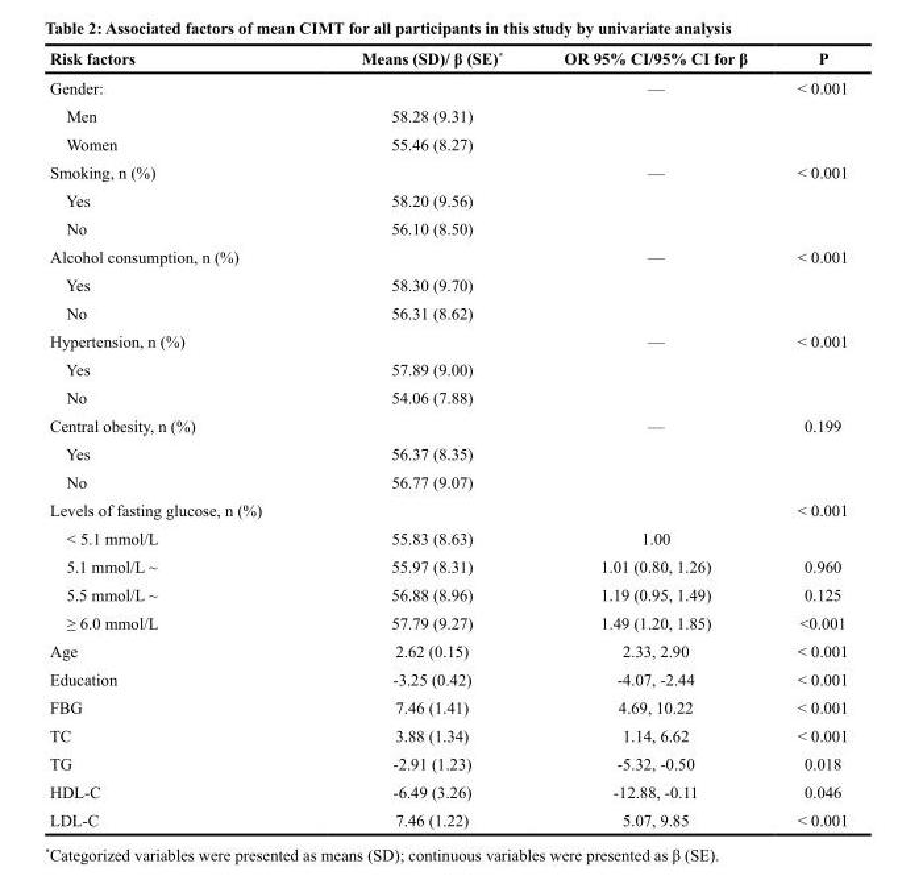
<table><thead><tr><td>Risk factors</td><td>Means (SD)/ β (SE)*</td><td>OR 95% CI/95% CI for β</td><td>P</td></tr></thead><tbody><tr><td>Gender:</td><td></td><td>—</td><td>&lt; 0.001</td></tr><tr><td>Men</td><td>58.28 (9.31)</td><td></td><td></td></tr><tr><td>Women</td><td>55.46 (8.27)</td><td></td><td></td></tr><tr><td>Smoking, n (%)</td><td></td><td>—</td><td>&lt; 0.001</td></tr><tr><td>Yes</td><td>58.20 (9.56)</td><td></td><td></td></tr><tr><td>No</td><td>56.10 (8.50)</td><td></td><td></td></tr><tr><td>Alcohol consumption, n (%)</td><td></td><td>—</td><td>&lt; 0.001</td></tr><tr><td>Yes</td><td>58.30 (9.70)</td><td></td><td></td></tr><tr><td>No</td><td>56.31 (8.62)</td><td></td><td></td></tr><tr><td>Hypertension, n (%)</td><td></td><td>—</td><td>&lt; 0.001</td></tr><tr><td>Yes</td><td>57.89 (9.00)</td><td></td><td></td></tr><tr><td>No</td><td>54.06 (7.88)</td><td></td><td></td></tr><tr><td>Central obesity, n (%)</td><td></td><td>—</td><td>0.199</td></tr><tr><td>Yes</td><td>56.37 (8.35)</td><td></td><td></td></tr><tr><td>No</td><td>56.77 (9.07)</td><td></td><td></td></tr><tr><td>Levels of fasting glucose, n (%)</td><td></td><td></td><td>&lt; 0.001</td></tr><tr><td>&lt; 5.1 mmol/L</td><td>55.83 (8.63)</td><td>1.00</td><td></td></tr><tr><td>5.1 mmol/L ~</td><td>55.97 (8.31)</td><td>1.01 (0.80, 1.26)</td><td>0.960</td></tr><tr><td>5.5 mmol/L ~</td><td>56.88 (8.96)</td><td>1.19 (0.95, 1.49)</td><td>0.125</td></tr><tr><td>≥ 6.0 mmol/L</td><td>57.79 (9.27)</td><td>1.49 (1.20, 1.85)</td><td>&lt;0.001</td></tr><tr><td>Age</td><td>2.62 (0.15)</td><td>2.33, 2.90</td><td>&lt; 0.001</td></tr><tr><td>Education</td><td>-3.25 (0.42)</td><td>-4.07, -2.44</td><td>&lt; 0.001</td></tr><tr><td>FBG</td><td>7.46 (1.41)</td><td>4.69, 10.22</td><td>&lt; 0.001</td></tr><tr><td>TC</td><td>3.88 (1.34)</td><td>1.14, 6.62</td><td>&lt; 0.001</td></tr><tr><td>TG</td><td>-2.91 (1.23)</td><td>-5.32, -0.50</td><td>0.018</td></tr><tr><td>HDL-C</td><td>-6.49 (3.26)</td><td>-12.88, -0.11</td><td>0.046</td></tr><tr><td>LDL-C</td><td>7.46 (1.22)</td><td>5.07, 9.85</td><td>&lt; 0.001</td></tr></tbody></table>